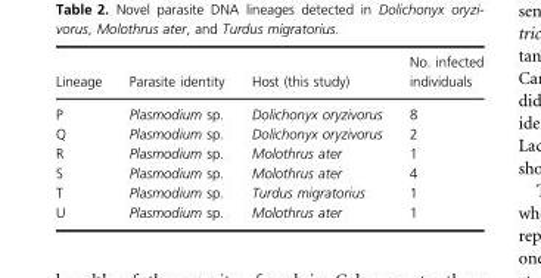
<table><thead><tr><td>Lineage</td><td>Parasite identity</td><td>Host (this study)</td><td>No. infected individuals</td></tr></thead><tbody><tr><td>P</td><td>Plasmodium sp.</td><td>Dolichonyx oryzivorus</td><td>8</td></tr><tr><td>Q</td><td>Plasmodium sp.</td><td>Dolichonyx oryzivorus</td><td>2</td></tr><tr><td>R</td><td>Plasmodium sp.</td><td>Molothrus ater</td><td>1</td></tr><tr><td>S</td><td>Plasmodium sp.</td><td>Molothrus ater</td><td>4</td></tr><tr><td>T</td><td>Plasmodium sp.</td><td>Turdus migratorius</td><td>1</td></tr><tr><td>U</td><td>Plasmodium sp.</td><td>Molothrus ater</td><td>1</td></tr></tbody></table>